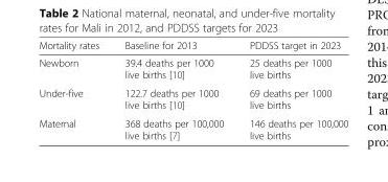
<table><thead><tr><td>Mortality rates</td><td>Baseline for 2013</td><td>PDDSS target in 2023</td></tr></thead><tbody><tr><td>Newborn</td><td>39.4 deaths per 1000 live births [10]</td><td>25 deaths per 1000 live births</td></tr><tr><td>Under-five</td><td>122.7 deaths per 1000 live births [10]</td><td>69 deaths per 1000 live births</td></tr><tr><td>Maternal</td><td>368 deaths per 100,000 live births [7]</td><td>146 deaths per 100,000 live births</td></tr></tbody></table>